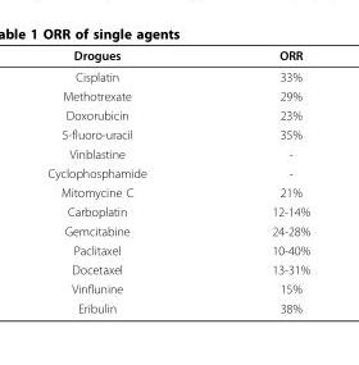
<table><thead><tr><td>Drogues</td><td>ORR</td></tr></thead><tbody><tr><td>Cisplatin</td><td>33%</td></tr><tr><td>Methotrexate</td><td>29%</td></tr><tr><td>Doxorubicin</td><td>23%</td></tr><tr><td>5-fluoro-uracil</td><td>35%</td></tr><tr><td>Vinblastine</td><td>-</td></tr><tr><td>Cyclophosphamide</td><td>-</td></tr><tr><td>Mitomycine C</td><td>21%</td></tr><tr><td>Carboplatin</td><td>12-14%</td></tr><tr><td>Gemcitabine</td><td>24-28%</td></tr><tr><td>Paclitaxel</td><td>10-40%</td></tr><tr><td>Docetaxel</td><td>13-31%</td></tr><tr><td>Vinflunine</td><td>15%</td></tr><tr><td>Eribulin</td><td>38%</td></tr></tbody></table>